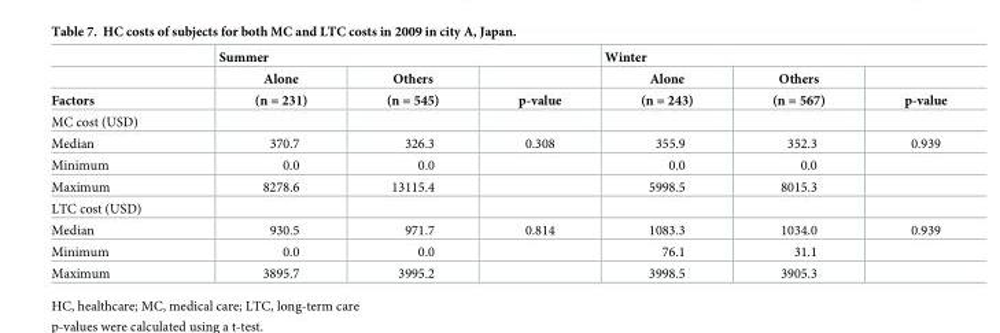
<table><thead><tr><td rowspan="3">Factors</td><td colspan="3">Summer</td><td colspan="3">Winter</td></tr><tr><td rowspan="2">Alone (n = 231)</td><td rowspan="2">Others (n = 545)</td><td rowspan="2">p-value</td><td rowspan="2">Alone (n = 243)</td><td rowspan="2">Others (n = 567)</td><td rowspan="2">p-value</td></tr><tr></tr></thead><tbody><tr><td colspan="7">MC cost (USD)</td></tr><tr><td>Median</td><td>370.7</td><td>326.3</td><td>0.308</td><td>355.9</td><td>352.3</td><td>0.939</td></tr><tr><td>Minimum</td><td>0.0</td><td>0.0</td><td></td><td>0.0</td><td>0.0</td><td></td></tr><tr><td>Maximum</td><td>8278.6</td><td>13115.4</td><td></td><td>5998.5</td><td>8015.3</td><td></td></tr><tr><td colspan="7">LTC cost (USD)</td></tr><tr><td>Median</td><td>930.5</td><td>971.7</td><td>0.814</td><td>1083.3</td><td>1034.0</td><td>0.939</td></tr><tr><td>Minimum</td><td>0.0</td><td>0.0</td><td></td><td>76.1</td><td>31.1</td><td></td></tr><tr><td>Maximum</td><td>3895.7</td><td>3995.2</td><td></td><td>3998.5</td><td>3905.3</td><td></td></tr></tbody></table>